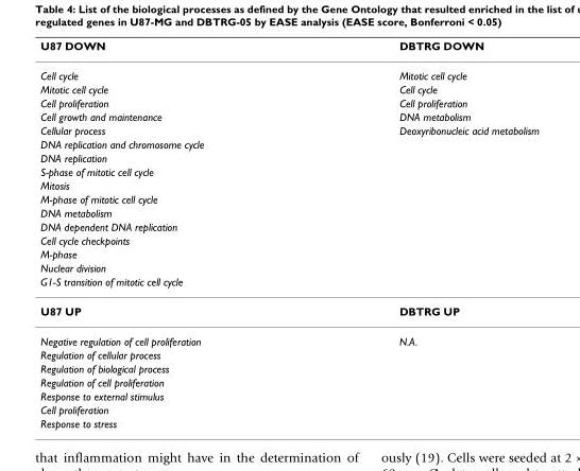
<table><thead><tr><td>U87 DOWN</td><td>DBTRG DOWN</td></tr></thead><tbody><tr><td>Cell cycle</td><td>Mitotic cell cycle</td></tr><tr><td>Mitotic cell cycle</td><td>Cell cycle</td></tr><tr><td>Cell proliferation</td><td>Cell proliferation</td></tr><tr><td>Cell growth and maintenance</td><td>DNA metabolism</td></tr><tr><td>Cellular process</td><td>Deoxyribonucleic acid metabolism</td></tr><tr><td colspan="2">DNA replication and chromosome cycle</td></tr><tr><td colspan="2">DNA replication</td></tr><tr><td colspan="2">S-phase of mitotic cell cycle</td></tr><tr><td colspan="2">Mitosis</td></tr><tr><td colspan="2">M-phase of mitotic cell cycle</td></tr><tr><td colspan="2">DNA metabolism</td></tr><tr><td colspan="2">DNA dependent DNA replication</td></tr><tr><td colspan="2">Cell cycle checkpoints</td></tr><tr><td colspan="2">M-phase</td></tr><tr><td colspan="2">Nuclear division</td></tr><tr><td colspan="2">G1-S transition of mitotic cell cycle</td></tr><tr><td>U87 UP</td><td>DBTRG UP</td></tr><tr><td>Negative regulation of cell proliferation</td><td>N.A.</td></tr><tr><td colspan="2">Regulation of cellular process</td></tr><tr><td colspan="2">Regulation of biological process</td></tr><tr><td colspan="2">Regulation of cell proliferation</td></tr><tr><td colspan="2">Response to external stimulus</td></tr><tr><td colspan="2">Cell proliferation</td></tr><tr><td>Response to stress</td><td></td></tr></tbody></table>